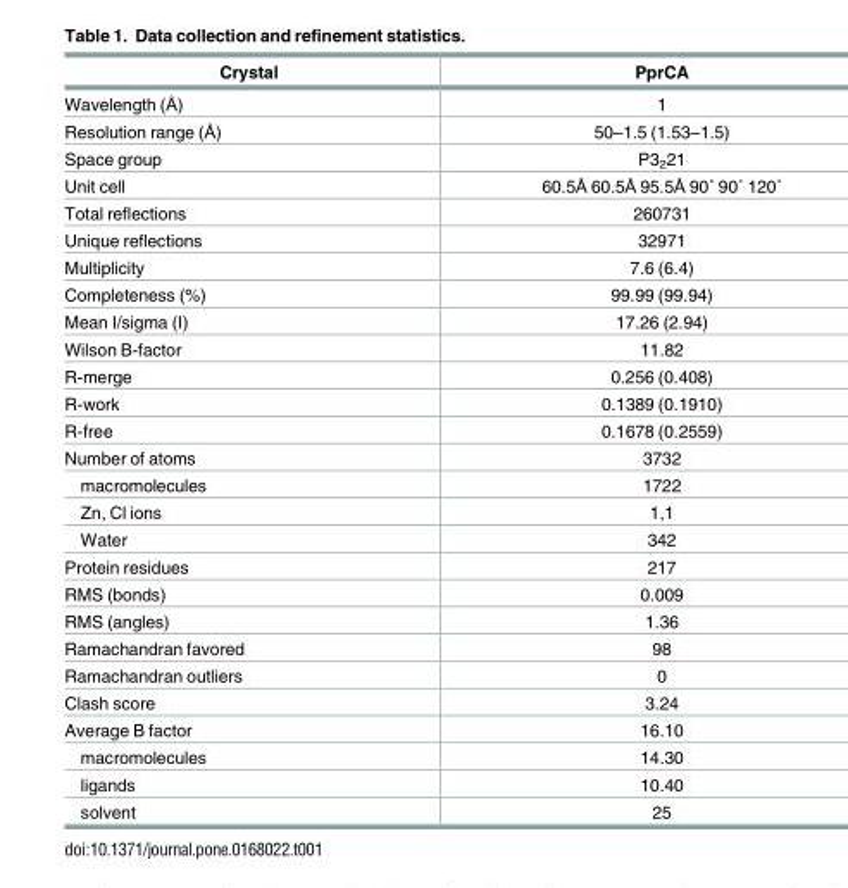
<table><thead><tr><td>Crystal</td><td>PprCA</td></tr></thead><tbody><tr><td>Wavelength (Å)</td><td>1</td></tr><tr><td>Resolution range (Å)</td><td>50–1.5 (1.53–1.5)</td></tr><tr><td>Space group</td><td>P3<sub>2</sub>21</td></tr><tr><td>Unit cell</td><td>60.5Å 60.5Å 95.5Å 90˚ 90˚ 120˚</td></tr><tr><td>Total reflections</td><td>260731</td></tr><tr><td>Unique reflections</td><td>32971</td></tr><tr><td>Multiplicity</td><td>7.6 (6.4)</td></tr><tr><td>Completeness (%)</td><td>99.99 (99.94)</td></tr><tr><td>Mean I/sigma (I)</td><td>17.26 (2.94)</td></tr><tr><td>Wilson B-factor</td><td>11.82</td></tr><tr><td>R-merge</td><td>0.256 (0.408)</td></tr><tr><td>R-work</td><td>0.1389 (0.1910)</td></tr><tr><td>R-free</td><td>0.1678 (0.2559)</td></tr><tr><td>Number of atoms</td><td>3732</td></tr><tr><td>macromolecules</td><td>1722</td></tr><tr><td>Zn, Cl ions</td><td>1,1</td></tr><tr><td>Water</td><td>342</td></tr><tr><td>Protein residues</td><td>217</td></tr><tr><td>RMS (bonds)</td><td>0.009</td></tr><tr><td>RMS (angles)</td><td>1.36</td></tr><tr><td>Ramachandran favored</td><td>98</td></tr><tr><td>Ramachandran outliers</td><td>0</td></tr><tr><td>Clash score</td><td>3.24</td></tr><tr><td>Average B factor</td><td>16.10</td></tr><tr><td>macromolecules</td><td>14.30</td></tr><tr><td>ligands</td><td>10.40</td></tr><tr><td>solvent</td><td>25</td></tr></tbody></table>